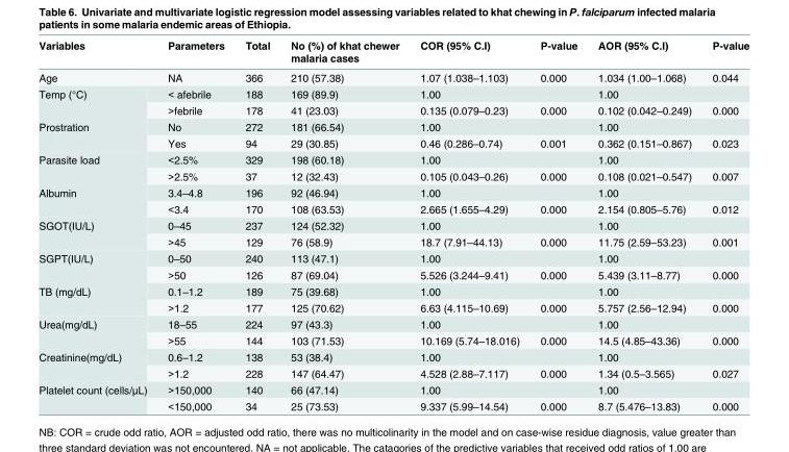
<table><thead><tr><td>Variables</td><td>Parameters</td><td>Total</td><td>No (%) of khat chewer malaria cases</td><td>COR (95% C.I)</td><td>P-value</td><td>AOR (95% C.I)</td><td>P-value</td></tr></thead><tbody><tr><td>Age</td><td>NA</td><td>366</td><td>210 (57.38)</td><td>1.07 (1.038–1.103)</td><td>0.000</td><td>1.034 (1.00–1.068)</td><td>0.044</td></tr><tr><td rowspan="2">Temp (°C)</td><td>&lt; afebrile</td><td>188</td><td>169 (89.9)</td><td>1.00</td><td></td><td>1.00</td><td></td></tr><tr><td>&gt;febrile</td><td>178</td><td>41 (23.03)</td><td>0.135 (0.079–0.23)</td><td>0.000</td><td>0.102 (0.042–0.249)</td><td>0.000</td></tr><tr><td rowspan="2">Prostration</td><td>No</td><td>272</td><td>181 (66.54)</td><td>1.00</td><td></td><td>1.00</td><td></td></tr><tr><td>Yes</td><td>94</td><td>29 (30.85)</td><td>0.46 (0.286–0.74)</td><td>0.001</td><td>0.362 (0.151–0.867)</td><td>0.023</td></tr><tr><td rowspan="2">Parasite load</td><td>&lt;2.5%</td><td>329</td><td>198 (60.18)</td><td>1.00</td><td></td><td>1.00</td><td></td></tr><tr><td>&gt;2.5%</td><td>37</td><td>12 (32.43)</td><td>0.105 (0.043–0.26)</td><td>0.000</td><td>0.108 (0.021–0.547)</td><td>0.007</td></tr><tr><td rowspan="2">Albumin</td><td>3.4–4.8</td><td>196</td><td>92 (46.94)</td><td>1.00</td><td></td><td>1.00</td><td></td></tr><tr><td>&lt;3.4</td><td>170</td><td>108 (63.53)</td><td>2.665 (1.655–4.29)</td><td>0.000</td><td>2.154 (0.805–5.76)</td><td>0.012</td></tr><tr><td rowspan="2">SGOT(IU/L)</td><td>0–45</td><td>237</td><td>124 (52.32)</td><td>1.00</td><td></td><td>1.00</td><td></td></tr><tr><td>&gt;45</td><td>129</td><td>76 (58.9)</td><td>18.7 (7.91–44.13)</td><td>0.000</td><td>11.75 (2.59–53.23)</td><td>0.001</td></tr><tr><td rowspan="2">SGPT(IU/L)</td><td>0–50</td><td>240</td><td>113 (47.1)</td><td>1.00</td><td></td><td>1.00</td><td></td></tr><tr><td>&gt;50</td><td>126</td><td>87 (69.04)</td><td>5.526 (3.244–9.41)</td><td>0.000</td><td>5.439 (3.11–8.77)</td><td>0.000</td></tr><tr><td rowspan="2">TB (mg/dL)</td><td>0.1–1.2</td><td>189</td><td>75 (39.68)</td><td>1.00</td><td></td><td>1.00</td><td></td></tr><tr><td>&gt;1.2</td><td>177</td><td>125 (70.62)</td><td>6.63 (4.115–10.69)</td><td>0.000</td><td>5.757 (2.56–12.94)</td><td>0.000</td></tr><tr><td rowspan="2">Urea(mg/dL)</td><td>18–55</td><td>224</td><td>97 (43.3)</td><td>1.00</td><td></td><td>1.00</td><td></td></tr><tr><td>&gt;55</td><td>144</td><td>103 (71.53)</td><td>10.169 (5.74–18.016)</td><td>0.000</td><td>14.5 (4.85–43.36)</td><td>0.000</td></tr><tr><td rowspan="2">Creatinine(mg/dL)</td><td>0.6–1.2</td><td>138</td><td>53 (38.4)</td><td>1.00</td><td></td><td>1.00</td><td></td></tr><tr><td>&gt;1.2</td><td>228</td><td>147 (64.47)</td><td>4.528 (2.88–7.117)</td><td>0.000</td><td>1.34 (0.5–3.565)</td><td>0.027</td></tr><tr><td rowspan="2">Platelet count (cells/μL)</td><td>&gt;150,000</td><td>140</td><td>66 (47.14)</td><td>1.00</td><td></td><td>1.00</td><td></td></tr><tr><td>&lt;150,000</td><td>34</td><td>25 (73.53)</td><td>9.337 (5.99–14.54)</td><td>0.000</td><td>8.7 (5.476–13.83)</td><td>0.000</td></tr></tbody></table>